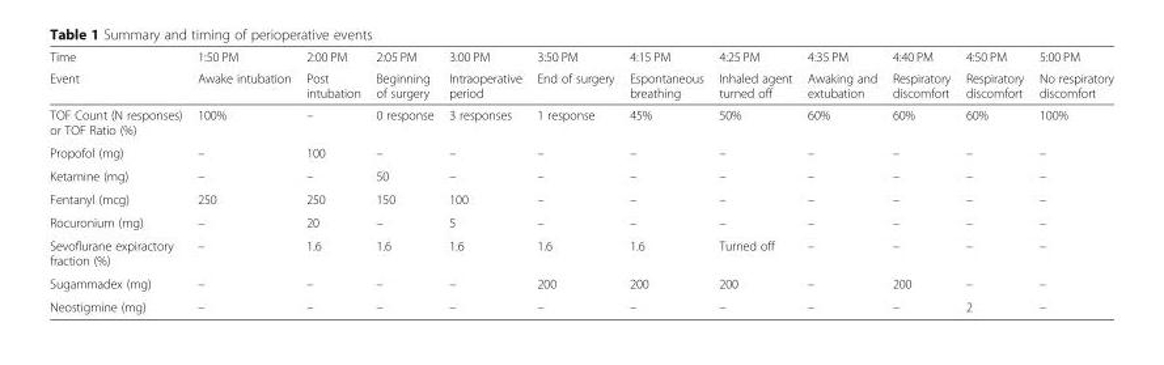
<table><thead><tr><td rowspan="2">Time Event</td><td rowspan="2">1:50 PM Awake intubation</td><td rowspan="2">2:00 PM Post intubation</td><td rowspan="2">2:05 PM Beginning of surgery</td><td rowspan="2">3:00 PM Intraoperative period</td><td rowspan="2">3:50 PM End of surgery</td><td rowspan="2">4:15 PM Espontaneous breathing</td><td rowspan="2">4:25 PM Inhaled agent turned off</td><td rowspan="2">4:35 PM Awaking and extubation</td><td rowspan="2">4:40 PM Respiratory discomfort</td><td rowspan="2">4:50 PM Respiratory discomfort</td><td rowspan="2">5:00 PM No respiratory discomfort</td></tr><tr></tr></thead><tbody><tr><td>TOF Count (N responses) or TOF Ratio (%)</td><td>100%</td><td>–</td><td>0 response</td><td>3 responses</td><td>1 response</td><td>45%</td><td>50%</td><td>60%</td><td>60%</td><td>60%</td><td>100%</td></tr><tr><td>Propofol (mg)</td><td>–</td><td>100</td><td>–</td><td>–</td><td>–</td><td>–</td><td>–</td><td>–</td><td>–</td><td>–</td><td>–</td></tr><tr><td>Ketamine (mg)</td><td>–</td><td>–</td><td>50</td><td>–</td><td>–</td><td>–</td><td>–</td><td>–</td><td>–</td><td>–</td><td>–</td></tr><tr><td>Fentanyl (mcg)</td><td>250</td><td>250</td><td>150</td><td>100</td><td>–</td><td>–</td><td>–</td><td>–</td><td>–</td><td>–</td><td>–</td></tr><tr><td>Rocuronium (mg)</td><td>–</td><td>20</td><td>–</td><td>5</td><td>–</td><td>–</td><td>–</td><td>–</td><td>–</td><td>–</td><td>–</td></tr><tr><td>Sevoflurane expiractory fraction (%)</td><td>–</td><td>1.6</td><td>1.6</td><td>1.6</td><td>1.6</td><td>1.6</td><td>Turned off</td><td>–</td><td>–</td><td>–</td><td>–</td></tr><tr><td>Sugammadex (mg)</td><td>–</td><td>–</td><td>–</td><td>–</td><td>200</td><td>200</td><td>200</td><td>–</td><td>200</td><td>–</td><td>–</td></tr><tr><td>Neostigmine (mg)</td><td>–</td><td>–</td><td>–</td><td>–</td><td>–</td><td>–</td><td>–</td><td>–</td><td>–</td><td>2</td><td>–</td></tr></tbody></table>